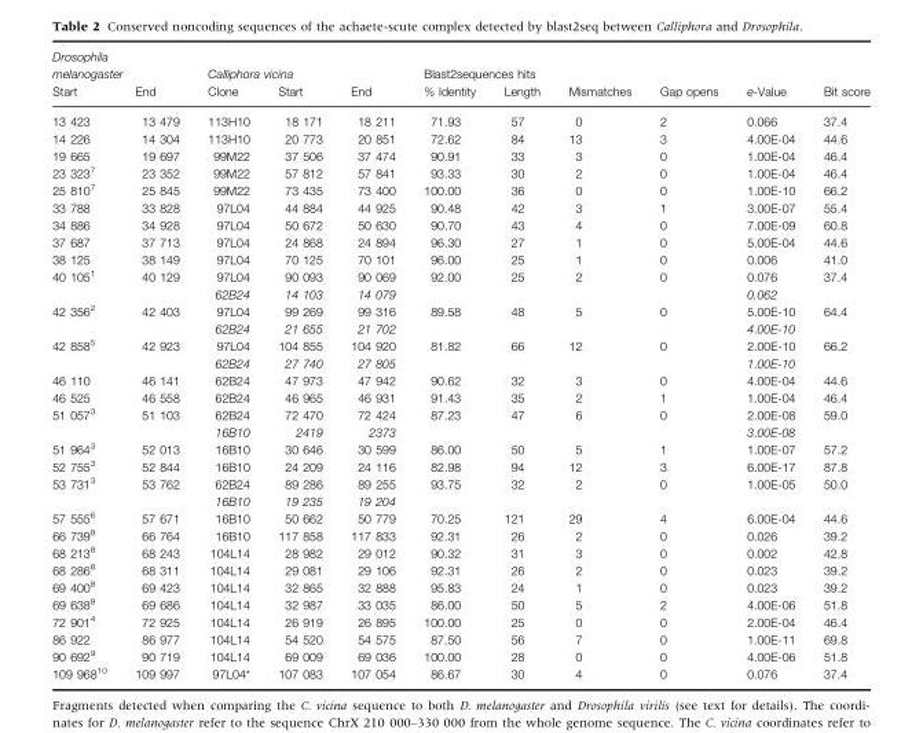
<table><thead><tr><td colspan="2">Drosophila melanogaster</td><td colspan="3">Calliphora vicina</td><td colspan="6">Blast2sequences hits</td></tr><tr><td>Start</td><td>End</td><td>Clone</td><td>Start</td><td>End</td><td>% Identity</td><td>Length</td><td>Mismatches</td><td>Gap opens</td><td>e-Value</td><td>Bit score</td></tr></thead><tbody><tr><td>13 423</td><td>13 479</td><td>113H10</td><td>18 171</td><td>18 211</td><td>71.93</td><td>57</td><td>0</td><td>2</td><td>0.066</td><td>37.4</td></tr><tr><td>14 226</td><td>14 304</td><td>113H10</td><td>20 773</td><td>20 851</td><td>72.62</td><td>84</td><td>13</td><td>3</td><td>4.00E-04</td><td>44.6</td></tr><tr><td>19 665</td><td>19 697</td><td>99M22</td><td>37 506</td><td>37 474</td><td>90.91</td><td>33</td><td>3</td><td>0</td><td>1.00E-04</td><td>46.4</td></tr><tr><td>23 323<sup>7</sup></td><td>23 352</td><td>99M22</td><td>57 812</td><td>57 841</td><td>93.33</td><td>30</td><td>2</td><td>0</td><td>1.00E-04</td><td>46.4</td></tr><tr><td>25 810<sup>7</sup></td><td>25 845</td><td>99M22</td><td>73 435</td><td>73 400</td><td>100.00</td><td>36</td><td>0</td><td>0</td><td>1.00E-10</td><td>66.2</td></tr><tr><td>33 788</td><td>33 828</td><td>97L04</td><td>44 884</td><td>44 925</td><td>90.48</td><td>42</td><td>3</td><td>1</td><td>3.00E-07</td><td>55.4</td></tr><tr><td>34 886</td><td>34 928</td><td>97L04</td><td>50 672</td><td>50 630</td><td>90.70</td><td>43</td><td>4</td><td>0</td><td>7.00E-09</td><td>60.8</td></tr><tr><td>37 687</td><td>37 713</td><td>97L04</td><td>24 868</td><td>24 894</td><td>96.30</td><td>27</td><td>1</td><td>0</td><td>5.00E-04</td><td>44.6</td></tr><tr><td>38 125</td><td>38 149</td><td>97L04</td><td>70 125</td><td>70 101</td><td>96.00</td><td>25</td><td>1</td><td>0</td><td>0.006</td><td>41.0</td></tr><tr><td rowspan="2">40 105<sup>1</sup></td><td>40 129</td><td>97L04</td><td>90 093</td><td>90 069</td><td>92.00</td><td>25</td><td>2</td><td>0</td><td>0.076</td><td>37.4</td></tr><tr><td></td><td>62B24</td><td>14 103</td><td>14 079</td><td></td><td></td><td></td><td></td><td>0.062</td><td></td></tr><tr><td rowspan="2">42 356<sup>2</sup></td><td>42 403</td><td>97L04</td><td>99 269</td><td>99 316</td><td>89.58</td><td>48</td><td>5</td><td>0</td><td>5.00E-10</td><td>64.4</td></tr><tr><td></td><td>62B24</td><td>21 655</td><td>21 702</td><td></td><td></td><td></td><td></td><td>4.00E-10</td><td></td></tr><tr><td rowspan="2">42 858<sup>5</sup></td><td>42 923</td><td>97L04</td><td>104 855</td><td>104 920</td><td>81.82</td><td>66</td><td>12</td><td>0</td><td>2.00E-10</td><td>66.2</td></tr><tr><td></td><td>62B24</td><td>27 740</td><td>27 805</td><td></td><td></td><td></td><td></td><td>1.00E-10</td><td></td></tr><tr><td>46 110</td><td>46 141</td><td>62B24</td><td>47 973</td><td>47 942</td><td>90.62</td><td>32</td><td>3</td><td>0</td><td>4.00E-04</td><td>44.6</td></tr><tr><td>46 525</td><td>46 558</td><td>62B24</td><td>46 965</td><td>46 931</td><td>91.43</td><td>35</td><td>2</td><td>1</td><td>1.00E-04</td><td>46.4</td></tr><tr><td rowspan="2">51 057<sup>3</sup></td><td>51 103</td><td>62B24</td><td>72 470</td><td>72 424</td><td>87.23</td><td>47</td><td>6</td><td>0</td><td>2.00E-08</td><td>59.0</td></tr><tr><td></td><td>16B10</td><td>2419</td><td>2373</td><td></td><td></td><td></td><td></td><td>3.00E-08</td><td></td></tr><tr><td>51 964<sup>3</sup></td><td>52 013</td><td>16B10</td><td>30 646</td><td>30 599</td><td>86.00</td><td>50</td><td>5</td><td>1</td><td>1.00E-07</td><td>57.2</td></tr><tr><td>52 755<sup>3</sup></td><td>52 844</td><td>16B10</td><td>24 209</td><td>24 116</td><td>82.98</td><td>94</td><td>12</td><td>3</td><td>6.00E-17</td><td>87.8</td></tr><tr><td rowspan="2">53 731<sup>3</sup></td><td>53 762</td><td>62B24</td><td>89 286</td><td>89 255</td><td>93.75</td><td>32</td><td>2</td><td>0</td><td>1.00E-05</td><td>50.0</td></tr><tr><td></td><td>16B10</td><td>19 235</td><td>19 204</td><td></td><td></td><td></td><td></td><td></td><td></td></tr><tr><td>57 555<sup>6</sup></td><td>57 671</td><td>16B10</td><td>50 662</td><td>50 779</td><td>70.25</td><td>121</td><td>29</td><td>4</td><td>6.00E-04</td><td>44.6</td></tr><tr><td>66 739<sup>8</sup></td><td>66 764</td><td>16B10</td><td>117 858</td><td>117 833</td><td>92.31</td><td>26</td><td>2</td><td>0</td><td>0.026</td><td>39.2</td></tr><tr><td>68 213<sup>8</sup></td><td>68 243</td><td>104L14</td><td>28 982</td><td>29 012</td><td>90.32</td><td>31</td><td>3</td><td>0</td><td>0.002</td><td>42.8</td></tr><tr><td>68 286<sup>8</sup></td><td>68 311</td><td>104L14</td><td>29 081</td><td>29 106</td><td>92.31</td><td>26</td><td>2</td><td>0</td><td>0.023</td><td>39.2</td></tr><tr><td>69 400<sup>8</sup></td><td>69 423</td><td>104L14</td><td>32 865</td><td>32 888</td><td>95.83</td><td>24</td><td>1</td><td>0</td><td>0.023</td><td>39.2</td></tr><tr><td>69 638<sup>8</sup></td><td>69 686</td><td>104L14</td><td>32 987</td><td>33 035</td><td>86.00</td><td>50</td><td>5</td><td>2</td><td>4.00E-06</td><td>51.8</td></tr><tr><td>72 901<sup>4</sup></td><td>72 925</td><td>104L14</td><td>26 919</td><td>26 895</td><td>100.00</td><td>25</td><td>0</td><td>0</td><td>2.00E-04</td><td>46.4</td></tr><tr><td>86 922</td><td>86 977</td><td>104L14</td><td>54 520</td><td>54 575</td><td>87.50</td><td>56</td><td>7</td><td>0</td><td>1.00E-11</td><td>69.8</td></tr><tr><td>90 692<sup>9</sup></td><td>90 719</td><td>104L14</td><td>69 009</td><td>69 036</td><td>100.00</td><td>28</td><td>0</td><td>0</td><td>4.00E-06</td><td>51.8</td></tr><tr><td>109 968<sup>10</sup></td><td>109 997</td><td>97L04*</td><td>107 083</td><td>107 054</td><td>86.67</td><td>30</td><td>4</td><td>0</td><td>0.076</td><td>37.4</td></tr></tbody></table>